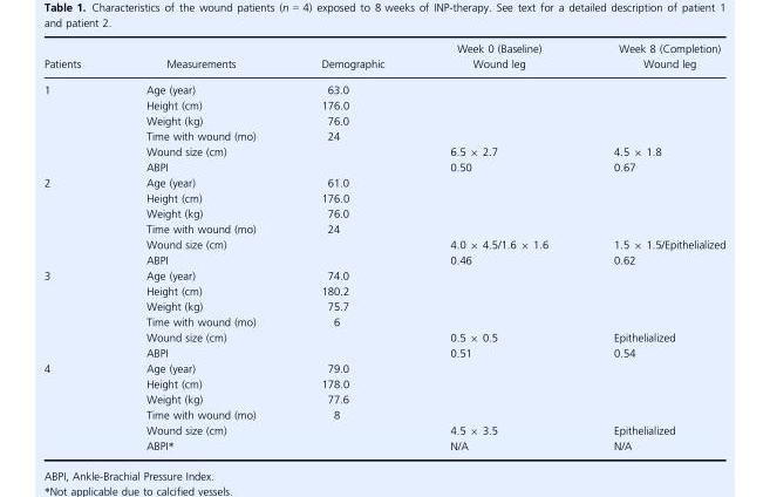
<table><thead><tr><td rowspan="2">Patients</td><td rowspan="2">Measurements</td><td rowspan="2">Demographic</td><td rowspan="2">Week 0 (Baseline) Wound leg</td><td rowspan="2">Week 8 (Completion) Wound leg</td></tr><tr></tr></thead><tbody><tr><td rowspan="6">1</td><td>Age (year)</td><td>63.0</td><td></td><td></td></tr><tr><td>Height (cm)</td><td>176.0</td><td></td><td></td></tr><tr><td>Weight (kg)</td><td>76.0</td><td></td><td></td></tr><tr><td>Time with wound (mo)</td><td>24</td><td></td><td></td></tr><tr><td>Wound size (cm)</td><td></td><td>6.5 × 2.7</td><td>4.5 × 1.8</td></tr><tr><td>ABPI</td><td></td><td>0.50</td><td>0.67</td></tr><tr><td rowspan="6">2</td><td>Age (year)</td><td>61.0</td><td></td><td></td></tr><tr><td>Height (cm)</td><td>176.0</td><td></td><td></td></tr><tr><td>Weight (kg)</td><td>76.0</td><td></td><td></td></tr><tr><td>Time with wound (mo)</td><td>24</td><td></td><td></td></tr><tr><td>Wound size (cm)</td><td></td><td>4.0 × 4.5/1.6 × 1.6</td><td>1.5 × 1.5/Epithelialized</td></tr><tr><td>ABPI</td><td></td><td>0.46</td><td>0.62</td></tr><tr><td rowspan="6">3</td><td>Age (year)</td><td>74.0</td><td></td><td></td></tr><tr><td>Height (cm)</td><td>180.2</td><td></td><td></td></tr><tr><td>Weight (kg)</td><td>75.7</td><td></td><td></td></tr><tr><td>Time with wound (mo)</td><td>6</td><td></td><td></td></tr><tr><td>Wound size (cm)</td><td></td><td>0.5 × 0.5</td><td>Epithelialized</td></tr><tr><td>ABPI</td><td></td><td>0.51</td><td>0.54</td></tr><tr><td rowspan="6">4</td><td>Age (year)</td><td>79.0</td><td></td><td></td></tr><tr><td>Height (cm)</td><td>178.0</td><td></td><td></td></tr><tr><td>Weight (kg)</td><td>77.6</td><td></td><td></td></tr><tr><td>Time with wound (mo)</td><td>8</td><td></td><td></td></tr><tr><td>Wound size (cm)</td><td></td><td>4.5 × 3.5</td><td>Epithelialized</td></tr><tr><td>ABPI*</td><td></td><td>N/A</td><td>N/A</td></tr></tbody></table>